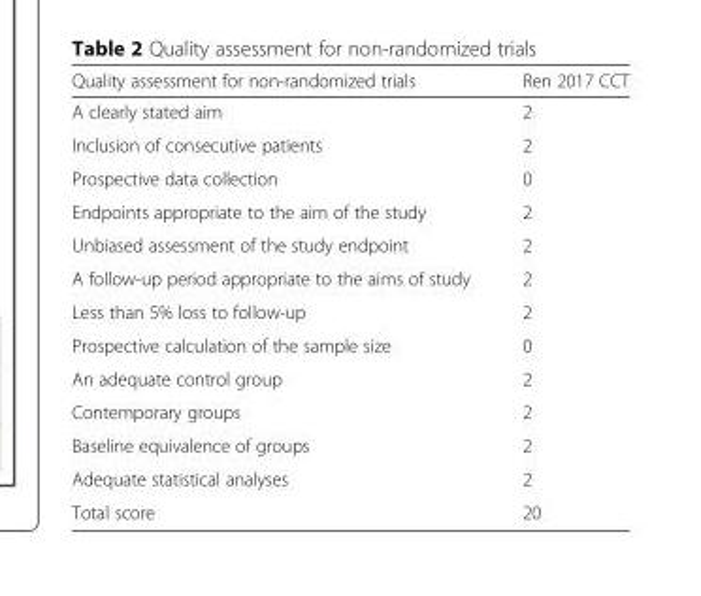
<table><thead><tr><td>Quality assessment for non-randomized trials</td><td>Ren 2017 CCT</td></tr></thead><tbody><tr><td>A clearly stated aim</td><td>2</td></tr><tr><td>Inclusion of consecutive patients</td><td>2</td></tr><tr><td>Prospective data collection</td><td>0</td></tr><tr><td>Endpoints appropriate to the aim of the study</td><td>2</td></tr><tr><td>Unbiased assessment of the study endpoint</td><td>2</td></tr><tr><td>A follow-up period appropriate to the aims of study</td><td>2</td></tr><tr><td>Less than 5% loss to follow-up</td><td>2</td></tr><tr><td>Prospective calculation of the sample size</td><td>0</td></tr><tr><td>An adequate control group</td><td>2</td></tr><tr><td>Contemporary groups</td><td>2</td></tr><tr><td>Baseline equivalence of groups</td><td>2</td></tr><tr><td>Adequate statistical analyses</td><td>2</td></tr><tr><td>Total score</td><td>20</td></tr></tbody></table>